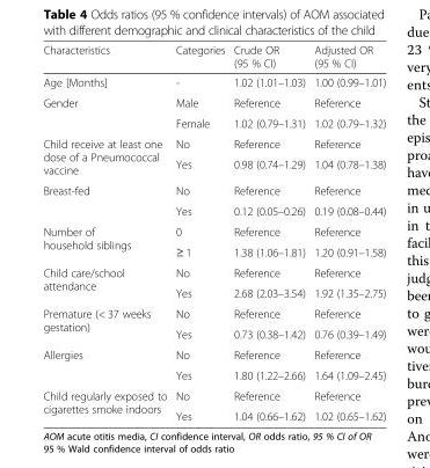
<table><thead><tr><td>Characteristics</td><td>Categories</td><td>Crude OR (95 % CI)</td><td>Adjusted OR (95 % CI)</td></tr></thead><tbody><tr><td>Age [Months]</td><td>-</td><td>1.02 (1.01–1.03)</td><td>1.00 (0.99–1.01)</td></tr><tr><td rowspan="2">Gender</td><td>Male</td><td>Reference</td><td>Reference</td></tr><tr><td>Female</td><td>1.02 (0.79–1.31)</td><td>1.02 (0.79–1.32)</td></tr><tr><td rowspan="2">Child receive at least one dose of a Pneumococcal vaccine</td><td>No</td><td>Reference</td><td>Reference</td></tr><tr><td>Yes</td><td>0.98 (0.74–1.29)</td><td>1.04 (0.78–1.38)</td></tr><tr><td rowspan="2">Breast-fed</td><td>No</td><td>Reference</td><td>Reference</td></tr><tr><td>Yes</td><td>0.12 (0.05–0.26)</td><td>0.19 (0.08–0.44)</td></tr><tr><td rowspan="2">Number of household siblings</td><td>0</td><td>Reference</td><td>Reference</td></tr><tr><td>≥ 1</td><td>1.38 (1.06–1.81)</td><td>1.20 (0.91–1.58)</td></tr><tr><td rowspan="2">Child care/school attendance</td><td>No</td><td>Reference</td><td>Reference</td></tr><tr><td>Yes</td><td>2.68 (2.03–3.54)</td><td>1.92 (1.35–2.75)</td></tr><tr><td rowspan="2">Premature (&lt; 37 weeks gestation)</td><td>No</td><td>Reference</td><td>Reference</td></tr><tr><td>Yes</td><td>0.73 (0.38–1.42)</td><td>0.76 (0.39–1.49)</td></tr><tr><td rowspan="2">Allergies</td><td>No</td><td>Reference</td><td>Reference</td></tr><tr><td>Yes</td><td>1.80 (1.22–2.66)</td><td>1.64 (1.09–2.45)</td></tr><tr><td rowspan="2">Child regularly exposed to cigarettes smoke indoors</td><td>No</td><td>Reference</td><td>Reference</td></tr><tr><td>Yes</td><td>1.04 (0.66–1.62)</td><td>1.02 (0.65–1.62)</td></tr></tbody></table>